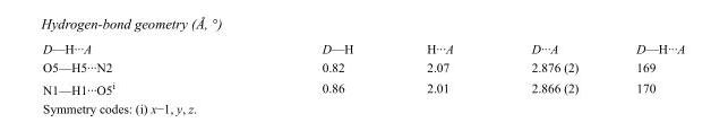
<table><tbody><tr><td>D—H···A</td><td>D—H</td><td>H···A</td><td>D···A</td><td>D—H···A</td></tr><tr><td>O5—H5···N2</td><td>0.82</td><td>2.07</td><td>2.876 (2)</td><td>169</td></tr><tr><td>N1—H1···O5<sup>i</sup></td><td>0.86</td><td>2.01</td><td>2.866 (2)</td><td>170</td></tr></tbody></table>